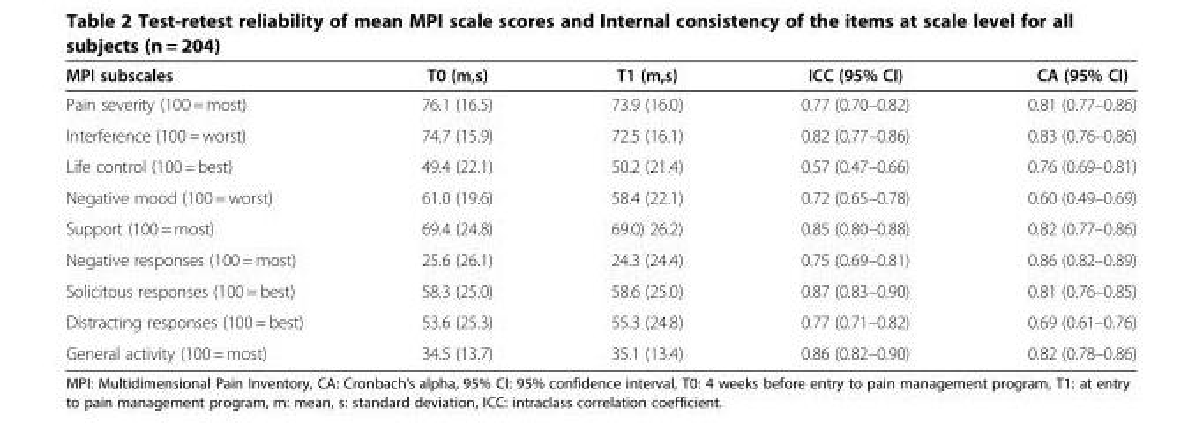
<table><thead><tr><td>MPI subscales</td><td>T0 (m,s)</td><td>T1 (m,s)</td><td>ICC (95% CI)</td><td>CA (95% CI)</td></tr></thead><tbody><tr><td>Pain severity (100 = most)</td><td>76.1 (16.5)</td><td>73.9 (16.0)</td><td>0.77 (0.70–0.82)</td><td>0.81 (0.77–0.86)</td></tr><tr><td>Interference (100 = worst)</td><td>74.7 (15.9)</td><td>72.5 (16.1)</td><td>0.82 (0.77–0.86)</td><td>0.83 (0.76–0.86)</td></tr><tr><td>Life control (100 = best)</td><td>49.4 (22.1)</td><td>50.2 (21.4)</td><td>0.57 (0.47–0.66)</td><td>0.76 (0.69–0.81)</td></tr><tr><td>Negative mood (100 = worst)</td><td>61.0 (19.6)</td><td>58.4 (22.1)</td><td>0.72 (0.65–0.78)</td><td>0.60 (0.49–0.69)</td></tr><tr><td>Support (100 = most)</td><td>69.4 (24.8)</td><td>69.0) 26.2)</td><td>0.85 (0.80–0.88)</td><td>0.82 (0.77–0.86)</td></tr><tr><td>Negative responses (100 = most)</td><td>25.6 (26.1)</td><td>24.3 (24.4)</td><td>0.75 (0.69–0.81)</td><td>0.86 (0.82–0.89)</td></tr><tr><td>Solicitous responses (100 = best)</td><td>58.3 (25.0)</td><td>58.6 (25.0)</td><td>0.87 (0.83–0.90)</td><td>0.81 (0.76–0.85)</td></tr><tr><td>Distracting responses (100 = best)</td><td>53.6 (25.3)</td><td>55.3 (24.8)</td><td>0.77 (0.71–0.82)</td><td>0.69 (0.61–0.76)</td></tr><tr><td>General activity (100 = most)</td><td>34.5 (13.7)</td><td>35.1 (13.4)</td><td>0.86 (0.82–0.90)</td><td>0.82 (0.78–0.86)</td></tr></tbody></table>